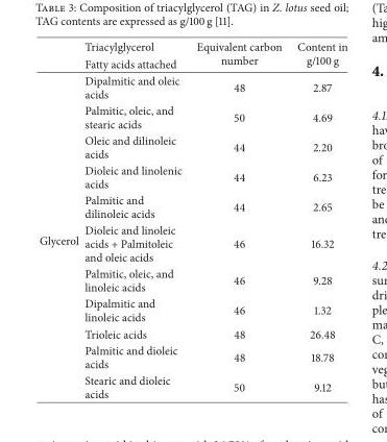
<table><thead><tr><td rowspan="2"></td><td rowspan="2">Triacylglycerol Fatty acids attached</td><td rowspan="2">Equivalent carbon number</td><td rowspan="2">Content in g/100 g</td></tr><tr></tr></thead><tbody><tr><td rowspan="11">Glycerol</td><td>Dipalmitic and oleic acids</td><td>48</td><td>2.87</td></tr><tr><td>Palmitic, oleic, and stearic acids</td><td>50</td><td>4.69</td></tr><tr><td>Oleic and dilinoleic acids</td><td>44</td><td>2.20</td></tr><tr><td>Dioleic and linolenic acids</td><td>44</td><td>6.23</td></tr><tr><td>Palmitic and dilinoleic acids</td><td>44</td><td>2.65</td></tr><tr><td>Dioleic and linoleic acids + Palmitoleic and oleic acids</td><td>46</td><td>16.32</td></tr><tr><td>Palmitic, oleic, and linoleic acids</td><td>46</td><td>9.28</td></tr><tr><td>Dipalmitic and linoleic acids</td><td>46</td><td>1.32</td></tr><tr><td>Trioleic acids</td><td>48</td><td>26.48</td></tr><tr><td>Palmitic and dioleic acids</td><td>48</td><td>18.78</td></tr><tr><td>Stearic and dioleic acids</td><td>50</td><td>9.12</td></tr></tbody></table>